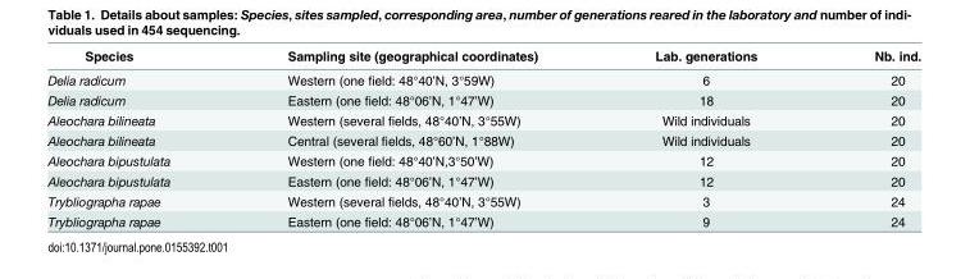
<table><thead><tr><td>Species</td><td>Sampling site (geographical coordinates)</td><td>Lab. generations</td><td>Nb. ind.</td></tr></thead><tbody><tr><td>Delia radicum</td><td>Western (one field: 48°40’N, 3°59W)</td><td>6</td><td>20</td></tr><tr><td>Delia radicum</td><td>Eastern (one field: 48°06’N, 1°47’W)</td><td>18</td><td>20</td></tr><tr><td>Aleochara bilineata</td><td>Western (several fields, 48°40’N, 3°55W)</td><td>Wild individuals</td><td>20</td></tr><tr><td>Aleochara bilineata</td><td>Central (several fields, 48°60’N, 1°88W)</td><td>Wild individuals</td><td>20</td></tr><tr><td>Aleochara bipustulata</td><td>Western (one field: 48°40’N,3°50’W)</td><td>12</td><td>20</td></tr><tr><td>Aleochara bipustulata</td><td>Eastern (one field: 48°06’N, 1°47’W)</td><td>12</td><td>20</td></tr><tr><td>Trybliographa rapae</td><td>Western (several fields, 48°40’N, 3°55W)</td><td>3</td><td>24</td></tr><tr><td>Trybliographa rapae</td><td>Eastern (one field: 48°06’N, 1°47’W)</td><td>9</td><td>24</td></tr></tbody></table>